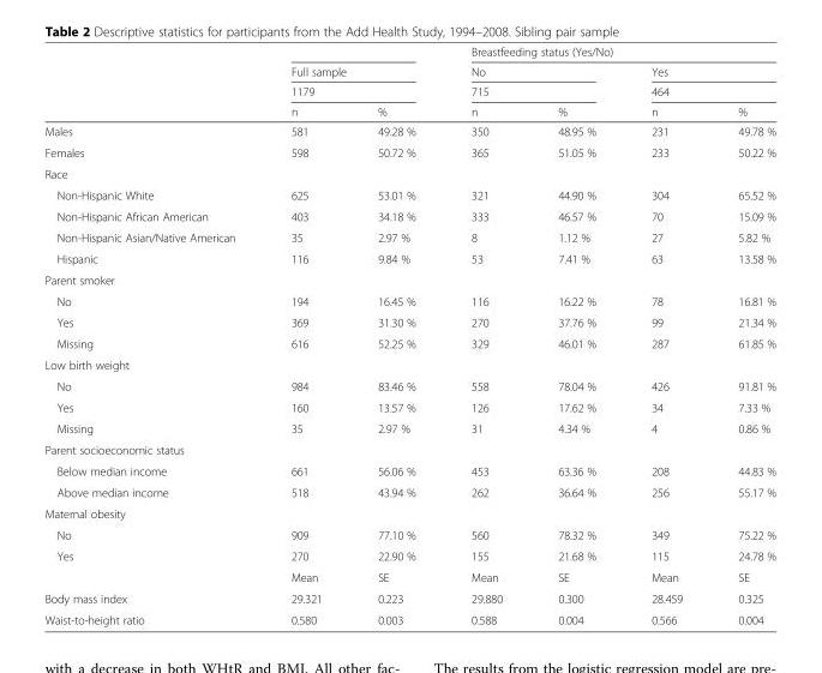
<table><thead><tr><td rowspan="4"></td><td></td><td></td><td colspan="4">Breastfeeding status (Yes/No)</td></tr><tr><td rowspan="2" colspan="2">Full sample 1179</td><td rowspan="2" colspan="2">No 715</td><td rowspan="2" colspan="2">Yes 464</td></tr><tr></tr><tr><td>n</td><td>%</td><td>n</td><td>%</td><td>n</td><td>%</td></tr></thead><tbody><tr><td>Males</td><td>581</td><td>49.28 %</td><td>350</td><td>48.95 %</td><td>231</td><td>49.78 %</td></tr><tr><td>Females</td><td>598</td><td>50.72 %</td><td>365</td><td>51.05 %</td><td>233</td><td>50.22 %</td></tr><tr><td colspan="7">Race</td></tr><tr><td>Non-Hispanic White</td><td>625</td><td>53.01 %</td><td>321</td><td>44.90 %</td><td>304</td><td>65.52 %</td></tr><tr><td>Non-Hispanic African American</td><td>403</td><td>34.18 %</td><td>333</td><td>46.57 %</td><td>70</td><td>15.09 %</td></tr><tr><td>Non-Hispanic Asian/Native American</td><td>35</td><td>2.97 %</td><td>8</td><td>1.12 %</td><td>27</td><td>5.82 %</td></tr><tr><td>Hispanic</td><td>116</td><td>9.84 %</td><td>53</td><td>7.41 %</td><td>63</td><td>13.58 %</td></tr><tr><td colspan="7">Parent smoker</td></tr><tr><td>No</td><td>194</td><td>16.45 %</td><td>116</td><td>16.22 %</td><td>78</td><td>16.81 %</td></tr><tr><td>Yes</td><td>369</td><td>31.30 %</td><td>270</td><td>37.76 %</td><td>99</td><td>21.34 %</td></tr><tr><td>Missing</td><td>616</td><td>52.25 %</td><td>329</td><td>46.01 %</td><td>287</td><td>61.85 %</td></tr><tr><td colspan="7">Low birth weight</td></tr><tr><td>No</td><td>984</td><td>83.46 %</td><td>558</td><td>78.04 %</td><td>426</td><td>91.81 %</td></tr><tr><td>Yes</td><td>160</td><td>13.57 %</td><td>126</td><td>17.62 %</td><td>34</td><td>7.33 %</td></tr><tr><td>Missing</td><td>35</td><td>2.97 %</td><td>31</td><td>4.34 %</td><td>4</td><td>0.86 %</td></tr><tr><td colspan="7">Parent socioeconomic status</td></tr><tr><td>Below median income</td><td>661</td><td>56.06 %</td><td>453</td><td>63.36 %</td><td>208</td><td>44.83 %</td></tr><tr><td>Above median income</td><td>518</td><td>43.94 %</td><td>262</td><td>36.64 %</td><td>256</td><td>55.17 %</td></tr><tr><td colspan="7">Maternal obesity</td></tr><tr><td>No</td><td>909</td><td>77.10 %</td><td>560</td><td>78.32 %</td><td>349</td><td>75.22 %</td></tr><tr><td rowspan="2">Yes</td><td>270</td><td>22.90 %</td><td>155</td><td>21.68 %</td><td>115</td><td>24.78 %</td></tr><tr><td>Mean</td><td>SE</td><td>Mean</td><td>SE</td><td>Mean</td><td>SE</td></tr><tr><td>Body mass index</td><td>29.321</td><td>0.223</td><td>29.880</td><td>0.300</td><td>28.459</td><td>0.325</td></tr><tr><td>Waist-to-height ratio</td><td>0.580</td><td>0.003</td><td>0.588</td><td>0.004</td><td>0.566</td><td>0.004</td></tr></tbody></table>